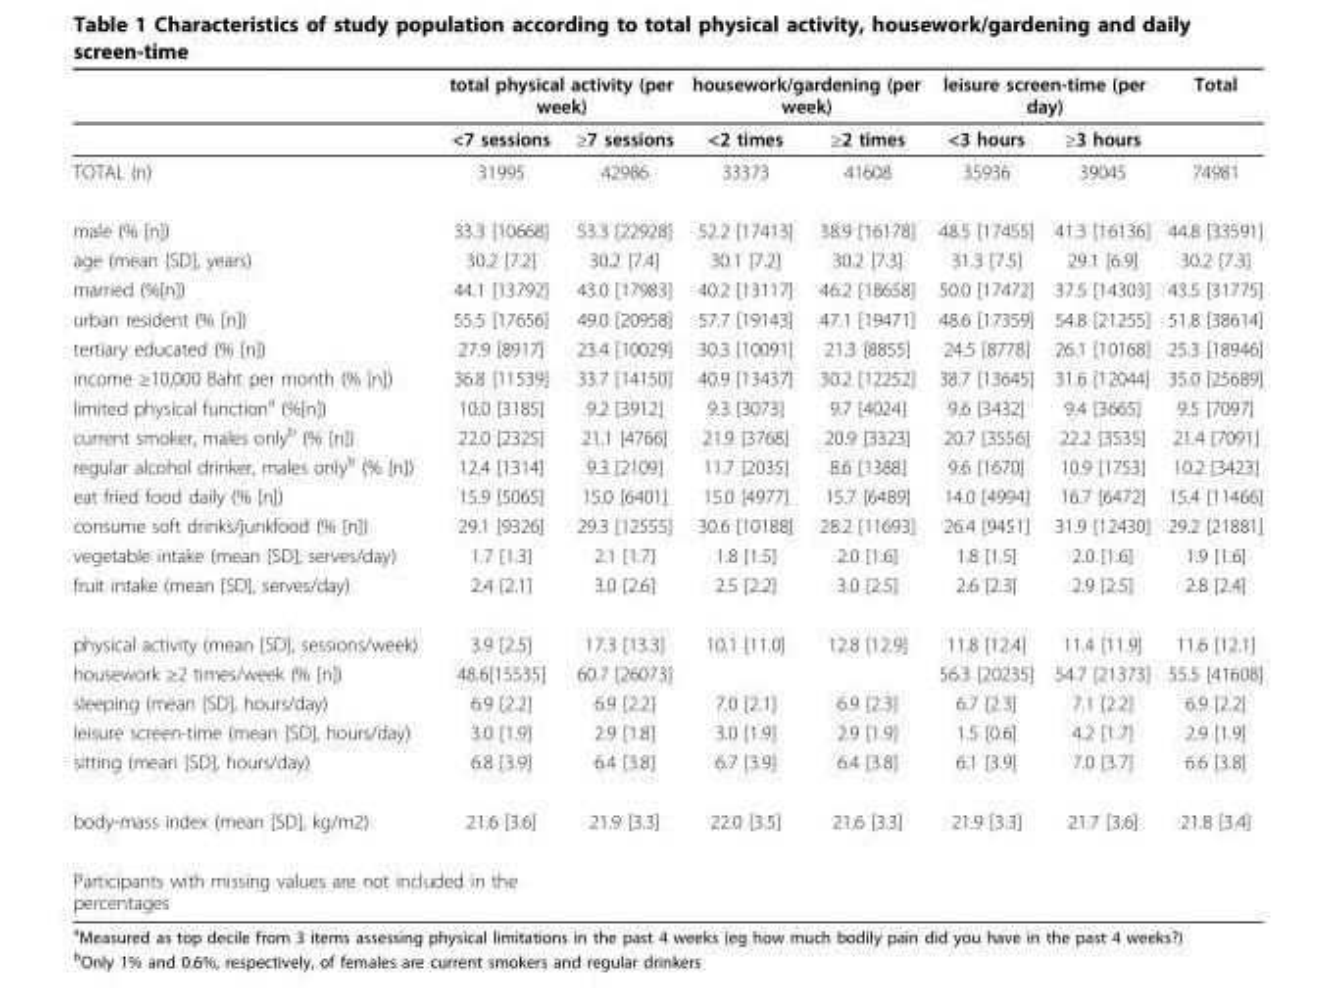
<table><thead><tr><td rowspan="2"></td><td colspan="2">total physical activity (per week)</td><td colspan="2">housework/gardening (per week)</td><td colspan="2">leisure screen-time (per day)</td><td rowspan="2">Total</td></tr><tr><td>&lt;7 sessions</td><td>≥7 sessions</td><td>&lt;2 times</td><td>≥2 times</td><td>&lt;3 hours</td><td>≥3 hours</td></tr></thead><tbody><tr><td>TOTAL (n)</td><td>31995</td><td>42986</td><td>33373</td><td>41608</td><td>35936</td><td>39045</td><td>74981</td></tr><tr><td>male (% [n])</td><td>33.3 [10668]</td><td>53.3 [22928]</td><td>52.2 [17413]</td><td>38.9 [16178]</td><td>48.5 [17455]</td><td>41.3 [16136]</td><td>44.8 [33591]</td></tr><tr><td>age (mean [SD], years)</td><td>30.2 [7.2]</td><td>30.2 [7.4]</td><td>30.1 [7.2]</td><td>30.2 [7.3]</td><td>31.3 [7.5]</td><td>29.1 [6.9]</td><td>30.2 [7.3]</td></tr><tr><td>married (%[n])</td><td>44.1 [13792]</td><td>43.0 [17983]</td><td>40.2 [13117]</td><td>46.2 [18658]</td><td>50.0 [17472]</td><td>37.5 [14303]</td><td>43.5 [31775]</td></tr><tr><td>urban resident (% [n])</td><td>55.5 [17656]</td><td>49.0 [20958]</td><td>57.7 [19143]</td><td>47.1 [19471]</td><td>48.6 [17359]</td><td>54.8 [21255]</td><td>51.8 [38614]</td></tr><tr><td>tertiary educated (% [n])</td><td>27.9 [8917]</td><td>23.4 [10029]</td><td>30.3 [10091]</td><td>21.3 [8855]</td><td>24.5 [8778]</td><td>26.1 [10168]</td><td>25.3 [18946]</td></tr><tr><td>income ≥10,000 Baht per month (% [n])</td><td>36.8 [11539]</td><td>33.7 [14150]</td><td>40.9 [13437]</td><td>30.2 [12252]</td><td>38.7 [13645]</td><td>31.6 [12044]</td><td>35.0 [25689]</td></tr><tr><td>limited physical function<sup>a</sup> (%[n])</td><td>10.0 [3185]</td><td>9.2 [3912]</td><td>9.3 [3073]</td><td>9.7 [4024]</td><td>9.6 [3432]</td><td>9.4 [3665]</td><td>9.5 [7097]</td></tr><tr><td>current smoker, males only<sup>b</sup> (% [n])</td><td>22.0 [2325]</td><td>21.1 [4766]</td><td>21.9 [3768]</td><td>20.9 [3323]</td><td>20.7 [3556]</td><td>22.2 [3535]</td><td>21.4 [7091]</td></tr><tr><td>regular alcohol drinker, males only<sup>b</sup> (% [n])</td><td>12.4 [1314]</td><td>9.3 [2109]</td><td>11.7 [2035]</td><td>8.6 [1388]</td><td>9.6 [1670]</td><td>10.9 [1753]</td><td>10.2 [3423]</td></tr><tr><td>eat fried food daily (% [n])</td><td>15.9 [5065]</td><td>15.0 [6401]</td><td>15.0 [4977]</td><td>15.7 [6489]</td><td>14.0 [4994]</td><td>16.7 [6472]</td><td>15.4 [11466]</td></tr><tr><td>consume soft drinks/junkfood (% [n])</td><td>29.1 [9326]</td><td>29.3 [12555]</td><td>30.6 [10188]</td><td>28.2 [11693]</td><td>26.4 [9451]</td><td>31.9 [12430]</td><td>29.2 [21881]</td></tr><tr><td>vegetable intake (mean [SD], serves/day)</td><td>1.7 [1.3]</td><td>2.1 [1.7]</td><td>1.8 [1.5]</td><td>2.0 [1.6]</td><td>1.8 [1.5]</td><td>2.0 [1.6]</td><td>1.9 [1.6]</td></tr><tr><td>fruit intake (mean [SD], serves/day)</td><td>2.4 [2.1]</td><td>3.0 [2.6]</td><td>2.5 [2.2]</td><td>3.0 [2.5]</td><td>2.6 [2.3]</td><td>2.9 [2.5]</td><td>2.8 [2.4]</td></tr><tr><td>physical activity (mean [SD], sessions/week)</td><td>3.9 [2.5]</td><td>17.3 [13.3]</td><td>10.1 [11.0]</td><td>12.8 [12.9]</td><td>11.8 [12.4]</td><td>11.4 [11.9]</td><td>11.6 [12.1]</td></tr><tr><td>housework ≥2 times/week (% [n])</td><td>48.6[15535]</td><td>60.7 [26073]</td><td></td><td></td><td>56.3 [20235]</td><td>54.7 [21373]</td><td>55.5 [41608]</td></tr><tr><td>sleeping (mean [SD], hours/day)</td><td>6.9 [2.2]</td><td>6.9 [2.2]</td><td>7.0 [2.1]</td><td>6.9 [2.3]</td><td>6.7 [2.3]</td><td>7.1 [2.2]</td><td>6.9 [2.2]</td></tr><tr><td>leisure screen-time (mean [SD], hours/day)</td><td>3.0 [1.9]</td><td>2.9 [1.8]</td><td>3.0 [1.9]</td><td>2.9 [1.9]</td><td>1.5 [0.6]</td><td>4.2 [1.7]</td><td>2.9 [1.9]</td></tr><tr><td>sitting (mean [SD], hours/day)</td><td>6.8 [3.9]</td><td>6.4 [3.8]</td><td>6.7 [3.9]</td><td>6.4 [3.8]</td><td>6.1 [3.9]</td><td>7.0 [3.7]</td><td>6.6 [3.8]</td></tr><tr><td>body-mass index (mean [SD], kg/m2)</td><td>21.6 [3.6]</td><td>21.9 [3.3]</td><td>22.0 [3.5]</td><td>21.6 [3.3]</td><td>21.9 [3.3]</td><td>21.7 [3.6]</td><td>21.8 [3.4]</td></tr><tr><td colspan="2">Participants with missing values are not included in the percentages</td><td></td><td></td><td></td><td></td><td></td><td></td></tr></tbody></table>